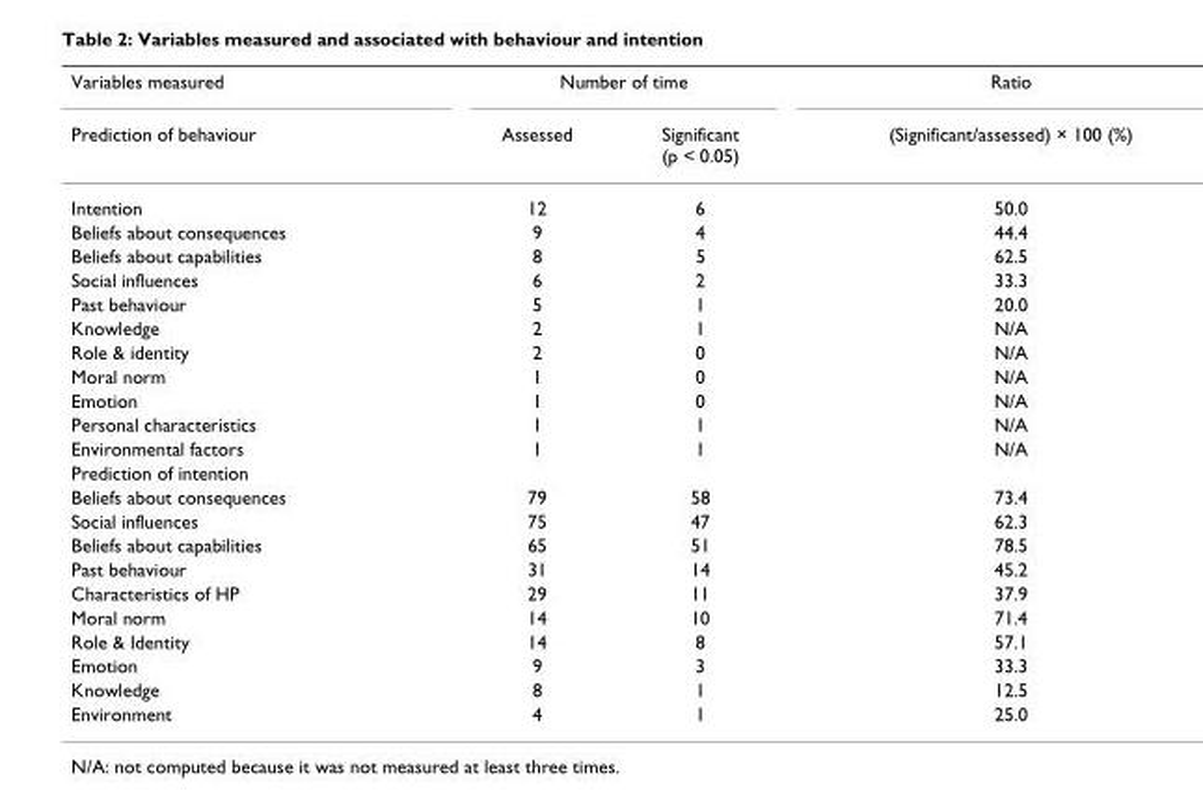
<table><thead><tr><td rowspan="2">Variables measured Prediction of behaviour</td><td colspan="2">Number of time</td><td rowspan="2">Ratio (Significant/assessed) × 100 (%)</td></tr><tr><td>Assessed</td><td>Significant (p &lt; 0.05)</td></tr></thead><tbody><tr><td>Intention</td><td>12</td><td>6</td><td>50.0</td></tr><tr><td>Beliefs about consequences</td><td>9</td><td>4</td><td>44.4</td></tr><tr><td>Beliefs about capabilities</td><td>8</td><td>5</td><td>62.5</td></tr><tr><td>Social influences</td><td>6</td><td>2</td><td>33.3</td></tr><tr><td>Past behaviour</td><td>5</td><td>1</td><td>20.0</td></tr><tr><td>Knowledge</td><td>2</td><td>1</td><td>N/A</td></tr><tr><td>Role &amp; identity</td><td>2</td><td>0</td><td>N/A</td></tr><tr><td>Moral norm</td><td>1</td><td>0</td><td>N/A</td></tr><tr><td>Emotion</td><td>1</td><td>0</td><td>N/A</td></tr><tr><td>Personal characteristics</td><td>1</td><td>1</td><td>N/A</td></tr><tr><td>Environmental factors</td><td>1</td><td>1</td><td>N/A</td></tr><tr><td colspan="4">Prediction of intention</td></tr><tr><td>Beliefs about consequences</td><td>79</td><td>58</td><td>73.4</td></tr><tr><td>Social influences</td><td>75</td><td>47</td><td>62.3</td></tr><tr><td>Beliefs about capabilities</td><td>65</td><td>51</td><td>78.5</td></tr><tr><td>Past behaviour</td><td>31</td><td>14</td><td>45.2</td></tr><tr><td>Characteristics of HP</td><td>29</td><td>11</td><td>37.9</td></tr><tr><td>Moral norm</td><td>14</td><td>10</td><td>71.4</td></tr><tr><td>Role &amp; Identity</td><td>14</td><td>8</td><td>57.1</td></tr><tr><td>Emotion</td><td>9</td><td>3</td><td>33.3</td></tr><tr><td>Knowledge</td><td>8</td><td>1</td><td>12.5</td></tr><tr><td>Environment</td><td>4</td><td>1</td><td>25.0</td></tr></tbody></table>